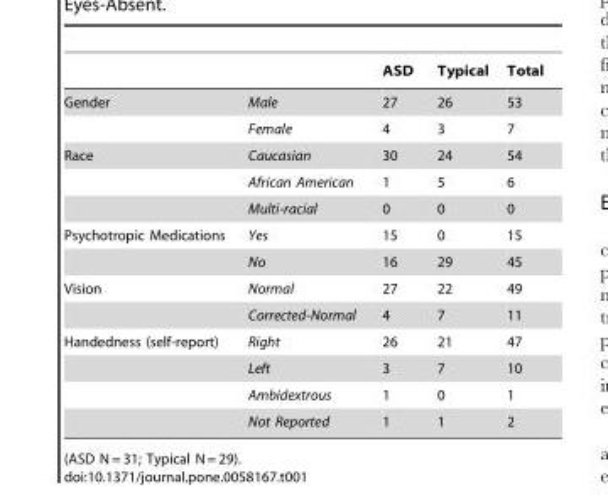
<table><thead><tr><td></td><td></td><td>ASD</td><td>Typical</td><td>Total</td></tr></thead><tbody><tr><td rowspan="2">Gender</td><td>Male</td><td>27</td><td>26</td><td>53</td></tr><tr><td>Female</td><td>4</td><td>3</td><td>7</td></tr><tr><td rowspan="3">Race</td><td>Caucasian</td><td>30</td><td>24</td><td>54</td></tr><tr><td>African American</td><td>1</td><td>5</td><td>6</td></tr><tr><td>Multi-racial</td><td>0</td><td>0</td><td>0</td></tr><tr><td rowspan="2">Psychotropic Medications</td><td>Yes</td><td>15</td><td>0</td><td>15</td></tr><tr><td>No</td><td>16</td><td>29</td><td>45</td></tr><tr><td rowspan="2">Vision</td><td>Normal</td><td>27</td><td>22</td><td>49</td></tr><tr><td>Corrected-Normal</td><td>4</td><td>7</td><td>11</td></tr><tr><td rowspan="4">Handedness (self-report)</td><td>Right</td><td>26</td><td>21</td><td>47</td></tr><tr><td>Left</td><td>3</td><td>7</td><td>10</td></tr><tr><td>Ambidextrous</td><td>1</td><td>0</td><td>1</td></tr><tr><td>Not Reported</td><td>1</td><td>1</td><td>2</td></tr></tbody></table>